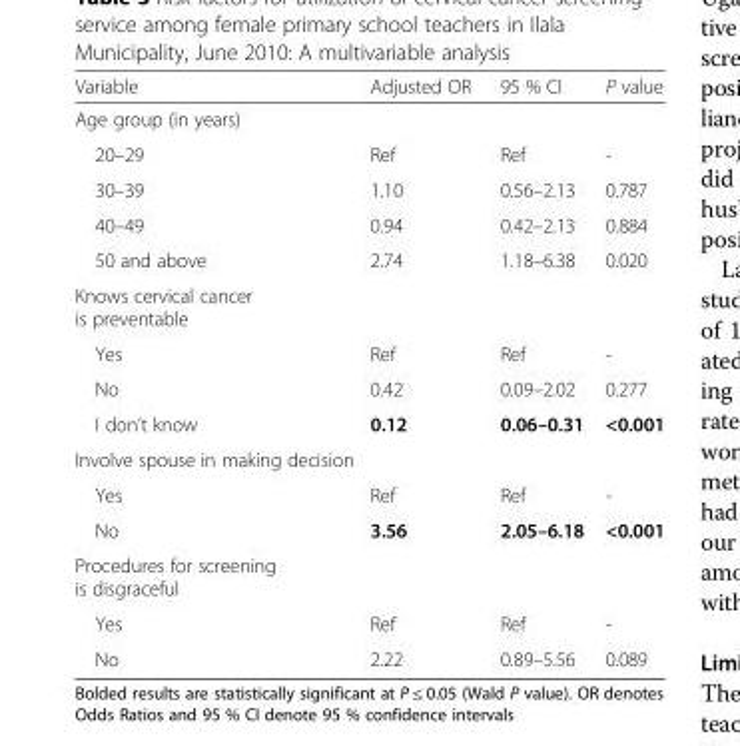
<table><thead><tr><td>Variable</td><td>Adjusted OR</td><td>95 % CI</td><td>P value</td></tr></thead><tbody><tr><td colspan="4">Age group (in years)</td></tr><tr><td>20–29</td><td>Ref</td><td>Ref</td><td>-</td></tr><tr><td>30–39</td><td>1.10</td><td>0.56–2.13</td><td>0.787</td></tr><tr><td>40–49</td><td>0.94</td><td>0.42–2.13</td><td>0.884</td></tr><tr><td>50 and above</td><td>2.74</td><td>1.18–6.38</td><td>0.020</td></tr><tr><td colspan="4">Knows cervical cancer is preventable</td></tr><tr><td>Yes</td><td>Ref</td><td>Ref</td><td>-</td></tr><tr><td>No</td><td>0.42</td><td>0.09–2.02</td><td>0.277</td></tr><tr><td>I don’t know</td><td>0.12</td><td>0.06–0.31</td><td>&lt;0.001</td></tr><tr><td colspan="4">Involve spouse in making decision</td></tr><tr><td>Yes</td><td>Ref</td><td>Ref</td><td>-</td></tr><tr><td>No</td><td>3.56</td><td>2.05–6.18</td><td>&lt;0.001</td></tr><tr><td colspan="4">Procedures for screening is disgraceful</td></tr><tr><td>Yes</td><td>Ref</td><td>Ref</td><td>-</td></tr><tr><td>No</td><td>2.22</td><td>0.89–5.56</td><td>0.089</td></tr></tbody></table>